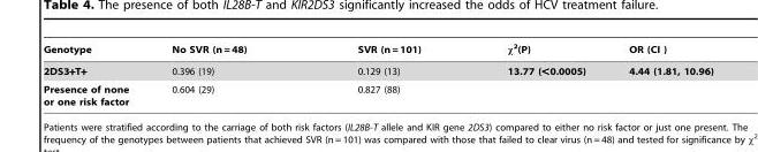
<table><thead><tr><td>Genotype</td><td>No SVR (n = 48)</td><td>SVR (n = 101)</td><td>χ<sup>2</sup>(P)</td><td>OR (CI )</td></tr></thead><tbody><tr><td>2DS3+T+</td><td>0.396 (19)</td><td>0.129 (13)</td><td>13.77 (&lt;0.0005)</td><td>4.44 (1.81, 10.96)</td></tr><tr><td>Presence of none or one risk factor</td><td>0.604 (29)</td><td>0.827 (88)</td><td></td><td></td></tr></tbody></table>